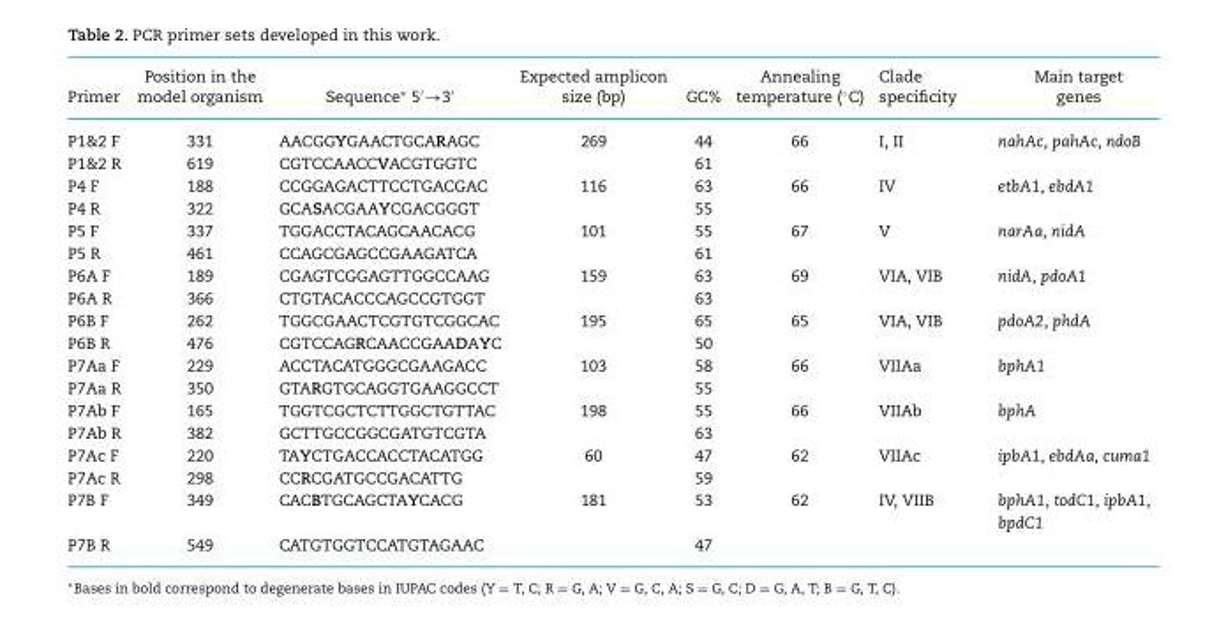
<table><thead><tr><td>Primer</td><td>Position in the model organism</td><td>Sequence∗ 5′→3′</td><td>Expected amplicon size (bp)</td><td>GC%</td><td>Annealing temperature (◦C)</td><td>Clade specificity</td><td>Main target genes</td></tr></thead><tbody><tr><td>P1&amp;2 F</td><td>331</td><td>AACGGYGAACTGCARAGC</td><td>269</td><td>44</td><td>66</td><td>I, II</td><td>nahAc, pahAc, ndoB</td></tr><tr><td>P1&amp;2 R</td><td>619</td><td>CGTCCAACCVACGTGGTC</td><td></td><td>61</td><td></td><td></td><td></td></tr><tr><td>P4 F</td><td>188</td><td>CCGGAGACTTCCTGACGAC</td><td>116</td><td>63</td><td>66</td><td>IV</td><td>etbA1, ebdA1</td></tr><tr><td>P4 R</td><td>322</td><td>GCASACGAAYCGACGGGT</td><td></td><td>55</td><td></td><td></td><td></td></tr><tr><td>P5 F</td><td>337</td><td>TGGACCTACAGCAACACG</td><td>101</td><td>55</td><td>67</td><td>V</td><td>narAa, nidA</td></tr><tr><td>P5 R</td><td>461</td><td>CCAGCGAGCCGAAGATCA</td><td></td><td>61</td><td></td><td></td><td></td></tr><tr><td>P6A F</td><td>189</td><td>CGAGTCGGAGTTGGCCAAG</td><td>159</td><td>63</td><td>69</td><td>VIA, VIB</td><td>nidA, pdoA1</td></tr><tr><td>P6A R</td><td>366</td><td>CTGTACACCCAGCCGTGGT</td><td></td><td>63</td><td></td><td></td><td></td></tr><tr><td>P6B F</td><td>262</td><td>TGGCGAACTCGTGTCGGCAC</td><td>195</td><td>65</td><td>65</td><td>VIA, VIB</td><td>pdoA2, phdA</td></tr><tr><td>P6B R</td><td>476</td><td>CGTCCAGRCAACCGAADAYC</td><td></td><td>50</td><td></td><td></td><td></td></tr><tr><td>P7Aa F</td><td>229</td><td>ACCTACATGGGCGAAGACC</td><td>103</td><td>58</td><td>66</td><td>VIIAa</td><td>bphA1</td></tr><tr><td>P7Aa R</td><td>350</td><td>GTARGTGCAGGTGAAGGCCT</td><td></td><td>55</td><td></td><td></td><td></td></tr><tr><td>P7Ab F</td><td>165</td><td>TGGTCGCTCTTGGCTGTTAC</td><td>198</td><td>55</td><td>66</td><td>VIIAb</td><td>bphA</td></tr><tr><td>P7Ab R</td><td>382</td><td>GCTTGCCGGCGATGTCGTA</td><td></td><td>63</td><td></td><td></td><td></td></tr><tr><td>P7Ac F</td><td>220</td><td>TAYCTGACCACCTACATGG</td><td>60</td><td>47</td><td>62</td><td>VIIAc</td><td>ipbA1, ebdAa, cuma1</td></tr><tr><td>P7Ac R</td><td>298</td><td>CCRCGATGCCGACATTG</td><td></td><td>59</td><td></td><td></td><td></td></tr><tr><td>P7B F</td><td>349</td><td>CACBTGCAGCTAYCACG</td><td>181</td><td>53</td><td>62</td><td>IV, VIIB</td><td>bphA1, todC1, ipbA1, bpdC1</td></tr><tr><td>P7B R</td><td>549</td><td>CATGTGGTCCATGTAGAAC</td><td></td><td>47</td><td></td><td></td><td></td></tr></tbody></table>